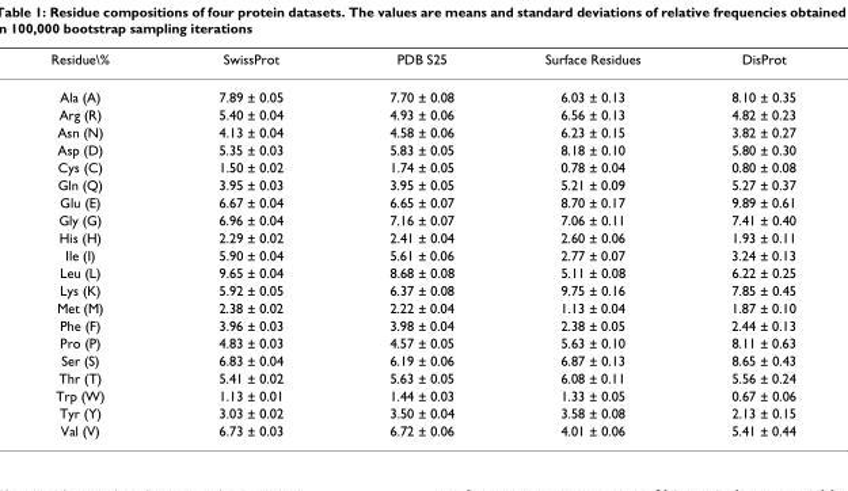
<table><thead><tr><td>Residue\%</td><td>SwissProt</td><td>PDB S25</td><td>Surface Residues</td><td>DisProt</td></tr></thead><tbody><tr><td>Ala (A)</td><td>7.89 ± 0.05</td><td>7.70 ± 0.08</td><td>6.03 ± 0.13</td><td>8.10 ± 0.35</td></tr><tr><td>Arg (R)</td><td>5.40 ± 0.04</td><td>4.93 ± 0.06</td><td>6.56 ± 0.13</td><td>4.82 ± 0.23</td></tr><tr><td>Asn (N)</td><td>4.13 ± 0.04</td><td>4.58 ± 0.06</td><td>6.23 ± 0.15</td><td>3.82 ± 0.27</td></tr><tr><td>Asp (D)</td><td>5.35 ± 0.03</td><td>5.83 ± 0.05</td><td>8.18 ± 0.10</td><td>5.80 ± 0.30</td></tr><tr><td>Cys (C)</td><td>1.50 ± 0.02</td><td>1.74 ± 0.05</td><td>0.78 ± 0.04</td><td>0.80 ± 0.08</td></tr><tr><td>Gln (Q)</td><td>3.95 ± 0.03</td><td>3.95 ± 0.05</td><td>5.21 ± 0.09</td><td>5.27 ± 0.37</td></tr><tr><td>Glu (E)</td><td>6.67 ± 0.04</td><td>6.65 ± 0.07</td><td>8.70 ± 0.17</td><td>9.89 ± 0.61</td></tr><tr><td>Gly (G)</td><td>6.96 ± 0.04</td><td>7.16 ± 0.07</td><td>7.06 ± 0.11</td><td>7.41 ± 0.40</td></tr><tr><td>His (H)</td><td>2.29 ± 0.02</td><td>2.41 ± 0.04</td><td>2.60 ± 0.06</td><td>1.93 ± 0.11</td></tr><tr><td>Ile (I)</td><td>5.90 ± 0.04</td><td>5.61 ± 0.06</td><td>2.77 ± 0.07</td><td>3.24 ± 0.13</td></tr><tr><td>Leu (L)</td><td>9.65 ± 0.04</td><td>8.68 ± 0.08</td><td>5.11 ± 0.08</td><td>6.22 ± 0.25</td></tr><tr><td>Lys (K)</td><td>5.92 ± 0.05</td><td>6.37 ± 0.08</td><td>9.75 ± 0.16</td><td>7.85 ± 0.45</td></tr><tr><td>Met (M)</td><td>2.38 ± 0.02</td><td>2.22 ± 0.04</td><td>1.13 ± 0.04</td><td>1.87 ± 0.10</td></tr><tr><td>Phe (F)</td><td>3.96 ± 0.03</td><td>3.98 ± 0.04</td><td>2.38 ± 0.05</td><td>2.44 ± 0.13</td></tr><tr><td>Pro (P)</td><td>4.83 ± 0.03</td><td>4.57 ± 0.05</td><td>5.63 ± 0.10</td><td>8.11 ± 0.63</td></tr><tr><td>Ser (S)</td><td>6.83 ± 0.04</td><td>6.19 ± 0.06</td><td>6.87 ± 0.13</td><td>8.65 ± 0.43</td></tr><tr><td>Thr (T)</td><td>5.41 ± 0.02</td><td>5.63 ± 0.05</td><td>6.08 ± 0.11</td><td>5.56 ± 0.24</td></tr><tr><td>Trp (W)</td><td>1.13 ± 0.01</td><td>1.44 ± 0.03</td><td>1.33 ± 0.05</td><td>0.67 ± 0.06</td></tr><tr><td>Tyr (Y)</td><td>3.03 ± 0.02</td><td>3.50 ± 0.04</td><td>3.58 ± 0.08</td><td>2.13 ± 0.15</td></tr><tr><td>Val (V)</td><td>6.73 ± 0.03</td><td>6.72 ± 0.06</td><td>4.01 ± 0.06</td><td>5.41 ± 0.44</td></tr></tbody></table>